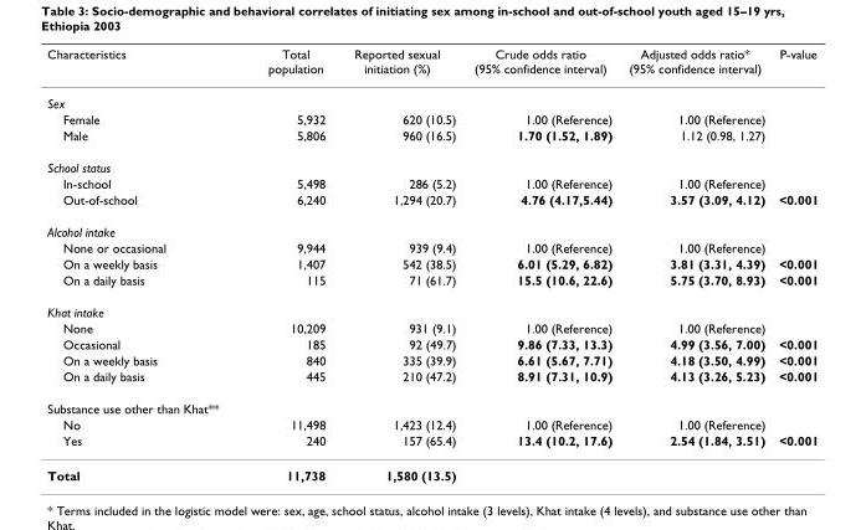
<table><thead><tr><td>Characteristics</td><td>Total population</td><td>Reported sexual initiation (%)</td><td>Crude odds ratio (95% confidence interval)</td><td>Adjusted odds ratio* (95% confidence interval)</td><td>P-value</td></tr></thead><tbody><tr><td colspan="6">Sex</td></tr><tr><td>Female</td><td>5,932</td><td>620 (10.5)</td><td>1.00 (Reference)</td><td>1.00 (Reference)</td><td></td></tr><tr><td>Male</td><td>5,806</td><td>960 (16.5)</td><td>1.70 (1.52, 1.89)</td><td>1.12 (0.98, 1.27)</td><td></td></tr><tr><td colspan="6">School status</td></tr><tr><td>In-school</td><td>5,498</td><td>286 (5.2)</td><td>1.00 (Reference)</td><td>1.00 (Reference)</td><td></td></tr><tr><td>Out-of-school</td><td>6,240</td><td>1,294 (20.7)</td><td>4.76 (4.17,5.44)</td><td>3.57 (3.09, 4.12)</td><td>&lt;0.001</td></tr><tr><td colspan="6">Alcohol intake</td></tr><tr><td>None or occasional</td><td>9,944</td><td>939 (9.4)</td><td>1.00 (Reference)</td><td>1.00 (Reference)</td><td></td></tr><tr><td>On a weekly basis</td><td>1,407</td><td>542 (38.5)</td><td>6.01 (5.29, 6.82)</td><td>3.81 (3.31, 4.39)</td><td>&lt;0.001</td></tr><tr><td>On a daily basis</td><td>115</td><td>71 (61.7)</td><td>15.5 (10.6, 22.6)</td><td>5.75 (3.70, 8.93)</td><td>&lt;0.001</td></tr><tr><td colspan="6">Khat intake</td></tr><tr><td>None</td><td>10,209</td><td>931 (9.1)</td><td>1.00 (Reference)</td><td>1.00 (Reference)</td><td></td></tr><tr><td>Occasional</td><td>185</td><td>92 (49.7)</td><td>9.86 (7.33, 13.3)</td><td>4.99 (3.56, 7.00)</td><td>&lt;0.001</td></tr><tr><td>On a weekly basis</td><td>840</td><td>335 (39.9)</td><td>6.61 (5.67, 7.71)</td><td>4.18 (3.50, 4.99)</td><td>&lt;0.001</td></tr><tr><td>On a daily basis</td><td>445</td><td>210 (47.2)</td><td>8.91 (7.31, 10.9)</td><td>4.13 (3.26, 5.23)</td><td>&lt;0.001</td></tr><tr><td colspan="6">Substance use other than Khat**</td></tr><tr><td>No</td><td>11,498</td><td>1,423 (12.4)</td><td>1.00 (Reference)</td><td>1.00 (Reference)</td><td></td></tr><tr><td>Yes</td><td>240</td><td>157 (65.4)</td><td>13.4 (10.2, 17.6)</td><td>2.54 (1.84, 3.51)</td><td>&lt;0.001</td></tr><tr><td>Total</td><td>11,738</td><td>1,580 (13.5)</td><td></td><td></td><td></td></tr></tbody></table>